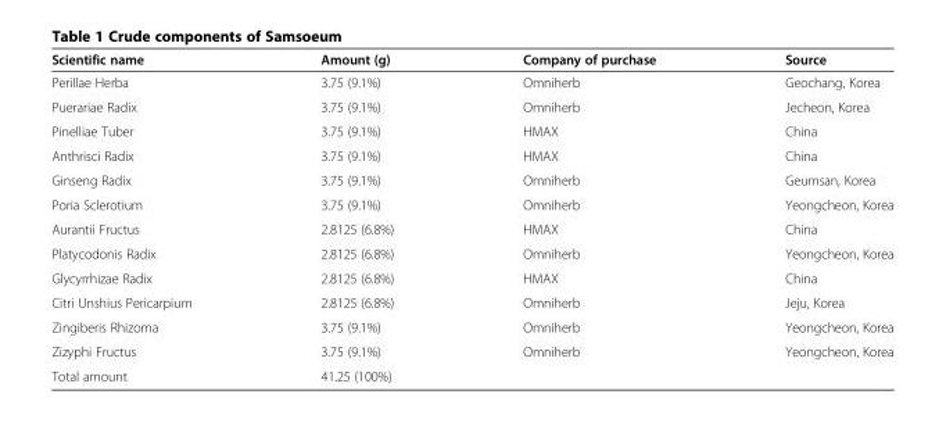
<table><thead><tr><td>Scientific name</td><td>Amount (g)</td><td>Company of purchase</td><td>Source</td></tr></thead><tbody><tr><td>Perillae Herba</td><td>3.75 (9.1%)</td><td>Omniherb</td><td>Geochang, Korea</td></tr><tr><td>Puerariae Radix</td><td>3.75 (9.1%)</td><td>Omniherb</td><td>Jecheon, Korea</td></tr><tr><td>Pinelliae Tuber</td><td>3.75 (9.1%)</td><td>HMAX</td><td>China</td></tr><tr><td>Anthrisci Radix</td><td>3.75 (9.1%)</td><td>HMAX</td><td>China</td></tr><tr><td>Ginseng Radix</td><td>3.75 (9.1%)</td><td>Omniherb</td><td>Geumsan, Korea</td></tr><tr><td>Poria Sclerotium</td><td>3.75 (9.1%)</td><td>Omniherb</td><td>Yeongcheon, Korea</td></tr><tr><td>Aurantii Fructus</td><td>2.8125 (6.8%)</td><td>HMAX</td><td>China</td></tr><tr><td>Platycodonis Radix</td><td>2.8125 (6.8%)</td><td>Omniherb</td><td>Yeongcheon, Korea</td></tr><tr><td>Glycyrrhizae Radix</td><td>2.8125 (6.8%)</td><td>HMAX</td><td>China</td></tr><tr><td>Citri Unshius Pericarpium</td><td>2.8125 (6.8%)</td><td>Omniherb</td><td>Jeju, Korea</td></tr><tr><td>Zingiberis Rhizoma</td><td>3.75 (9.1%)</td><td>Omniherb</td><td>Yeongcheon, Korea</td></tr><tr><td>Zizyphi Fructus</td><td>3.75 (9.1%)</td><td>Omniherb</td><td>Yeongcheon, Korea</td></tr><tr><td>Total amount</td><td>41.25 (100%)</td><td></td><td></td></tr></tbody></table>